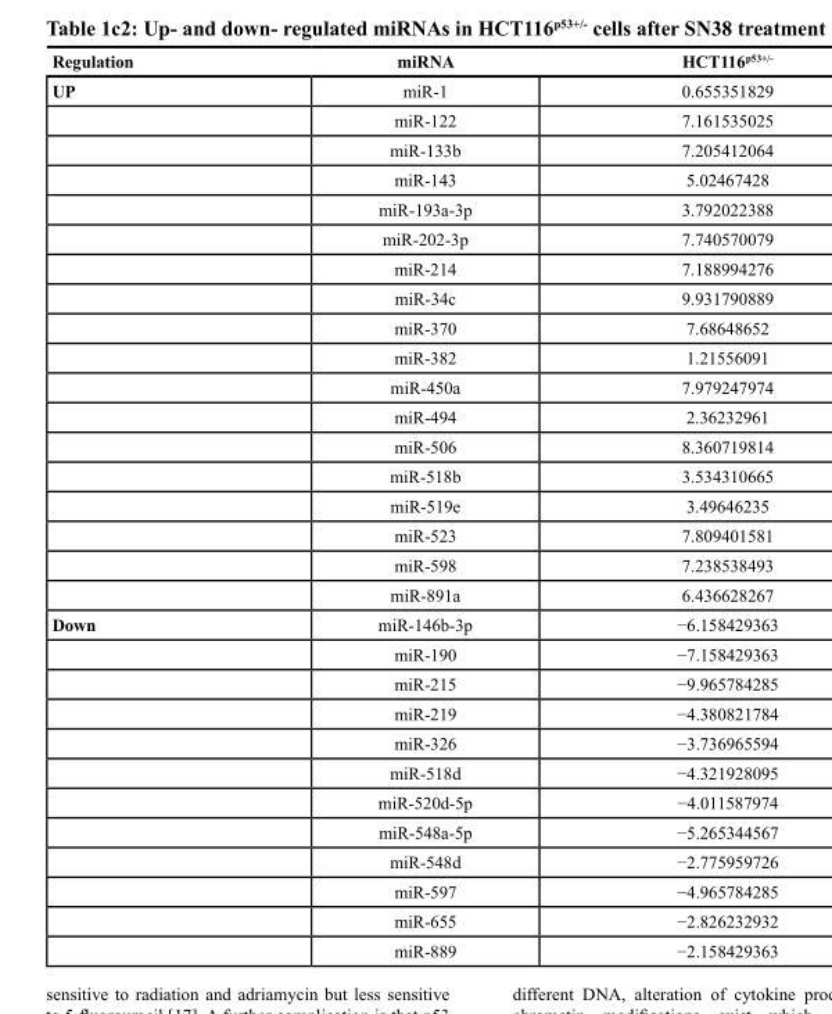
<table><thead><tr><td>Regulation</td><td>miRNA</td><td>HCT116<sup>p53+/-</sup></td></tr></thead><tbody><tr><td rowspan="18">UP</td><td>miR-1</td><td>0.655351829</td></tr><tr><td>miR-122</td><td>7.161535025</td></tr><tr><td>miR-133b</td><td>7.205412064</td></tr><tr><td>miR-143</td><td>5.02467428</td></tr><tr><td>miR-193a-3p</td><td>3.792022388</td></tr><tr><td>miR-202-3p</td><td>7.740570079</td></tr><tr><td>miR-214</td><td>7.188994276</td></tr><tr><td>miR-34c</td><td>9.931790889</td></tr><tr><td>miR-370</td><td>7.68648652</td></tr><tr><td>miR-382</td><td>1.21556091</td></tr><tr><td>miR-450a</td><td>7.979247974</td></tr><tr><td>miR-494</td><td>2.36232961</td></tr><tr><td>miR-506</td><td>8.360719814</td></tr><tr><td>miR-518b</td><td>3.534310665</td></tr><tr><td>miR-519e</td><td>3.49646235</td></tr><tr><td>miR-523</td><td>7.809401581</td></tr><tr><td>miR-598</td><td>7.238538493</td></tr><tr><td>miR-891a</td><td>6.436628267</td></tr><tr><td rowspan="12">Down</td><td>miR-146b-3p</td><td>−6.158429363</td></tr><tr><td>miR-190</td><td>−7.158429363</td></tr><tr><td>miR-215</td><td>−9.965784285</td></tr><tr><td>miR-219</td><td>−4.380821784</td></tr><tr><td>miR-326</td><td>−3.736965594</td></tr><tr><td>miR-518d</td><td>−4.321928095</td></tr><tr><td>miR-520d-5p</td><td>−4.011587974</td></tr><tr><td>miR-548a-5p</td><td>−5.265344567</td></tr><tr><td>miR-548d</td><td>−2.775959726</td></tr><tr><td>miR-597</td><td>−4.965784285</td></tr><tr><td>miR-655</td><td>−2.826232932</td></tr><tr><td>miR-889</td><td>−2.158429363</td></tr></tbody></table>